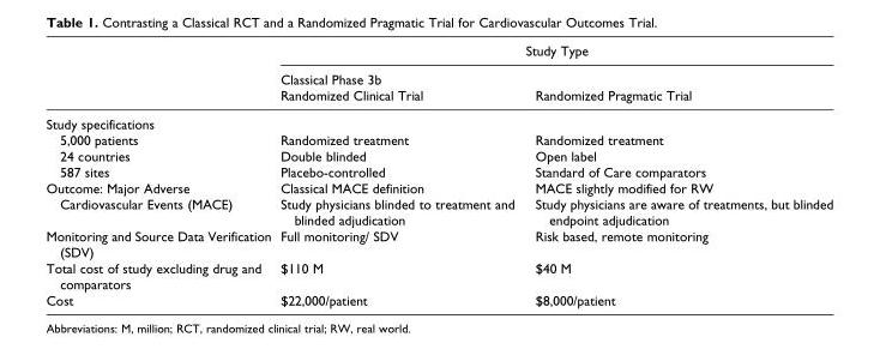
<table><thead><tr><td rowspan="2"></td><td colspan="2">Study Type</td></tr><tr><td>Classical Phase 3b Randomized Clinical Trial</td><td>Randomized Pragmatic Trial</td></tr></thead><tbody><tr><td colspan="3">Study specifications</td></tr><tr><td>5,000 patients 24 countries 587 sites</td><td>Randomized treatment Double blinded Placebo-controlled</td><td>Randomized treatment Open label Standard of Care comparators</td></tr><tr><td>Outcome: Major Adverse Cardiovascular Events (MACE)</td><td>Classical MACE definition Study physicians blinded to treatment and blinded adjudication</td><td>MACE slightly modified for RW Study physicians are aware of treatments, but blinded endpoint adjudication</td></tr><tr><td>Monitoring and Source Data Verification (SDV)</td><td>Full monitoring/ SDV</td><td>Risk based, remote monitoring</td></tr><tr><td>Total cost of study excluding drug and comparators</td><td>$110 M</td><td>$40 M</td></tr><tr><td>Cost</td><td>$22,000/patient</td><td>$8,000/patient</td></tr></tbody></table>